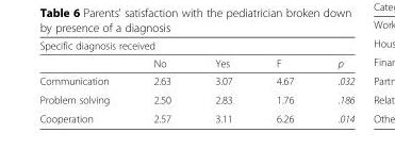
<table><thead><tr><td colspan="5">Specific diagnosis received</td></tr><tr><td></td><td>No</td><td>Yes</td><td>F</td><td>p</td></tr></thead><tbody><tr><td>Communication</td><td>2.63</td><td>3.07</td><td>4.67</td><td>.032</td></tr><tr><td>Problem solving</td><td>2.50</td><td>2.83</td><td>1.76</td><td>.186</td></tr><tr><td>Cooperation</td><td>2.57</td><td>3.11</td><td>6.26</td><td>.014</td></tr></tbody></table>